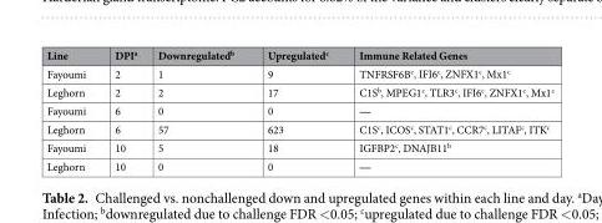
<table><thead><tr><td>Line</td><td>DPI<sup>a</sup></td><td>Downregulated<sup>b</sup></td><td>Upregulated<sup>c</sup></td><td>Immune Related Genes</td></tr></thead><tbody><tr><td>Fayoumi</td><td>2</td><td>1</td><td>9</td><td>TNFRSF6B<sup>c</sup>, IFI6<sup>c</sup>, ZNFX1<sup>c</sup>, Mx1<sup>c</sup></td></tr><tr><td>Leghorn</td><td>2</td><td>2</td><td>17</td><td>C1S<sup>b</sup>, MPEG1<sup>c</sup>, TLR3<sup>c</sup>, IFI6<sup>c</sup>, ZNFX1<sup>c</sup>, Mx1<sup>c</sup></td></tr><tr><td>Fayoumi</td><td>6</td><td>0</td><td>0</td><td>‒‒</td></tr><tr><td>Leghorn</td><td>6</td><td>57</td><td>623</td><td>C1S<sup>c</sup>, ICOS<sup>c</sup>, STAT1<sup>c</sup>, CCR7<sup>c</sup>, LITAF<sup>c</sup>, ITK<sup>c</sup></td></tr><tr><td>Fayoumi</td><td>10</td><td>5</td><td>18</td><td>IGFBP2<sup>c</sup>, DNAJB11<sup>b</sup></td></tr><tr><td>Leghorn</td><td>10</td><td>0</td><td>0</td><td>‒‒</td></tr></tbody></table>